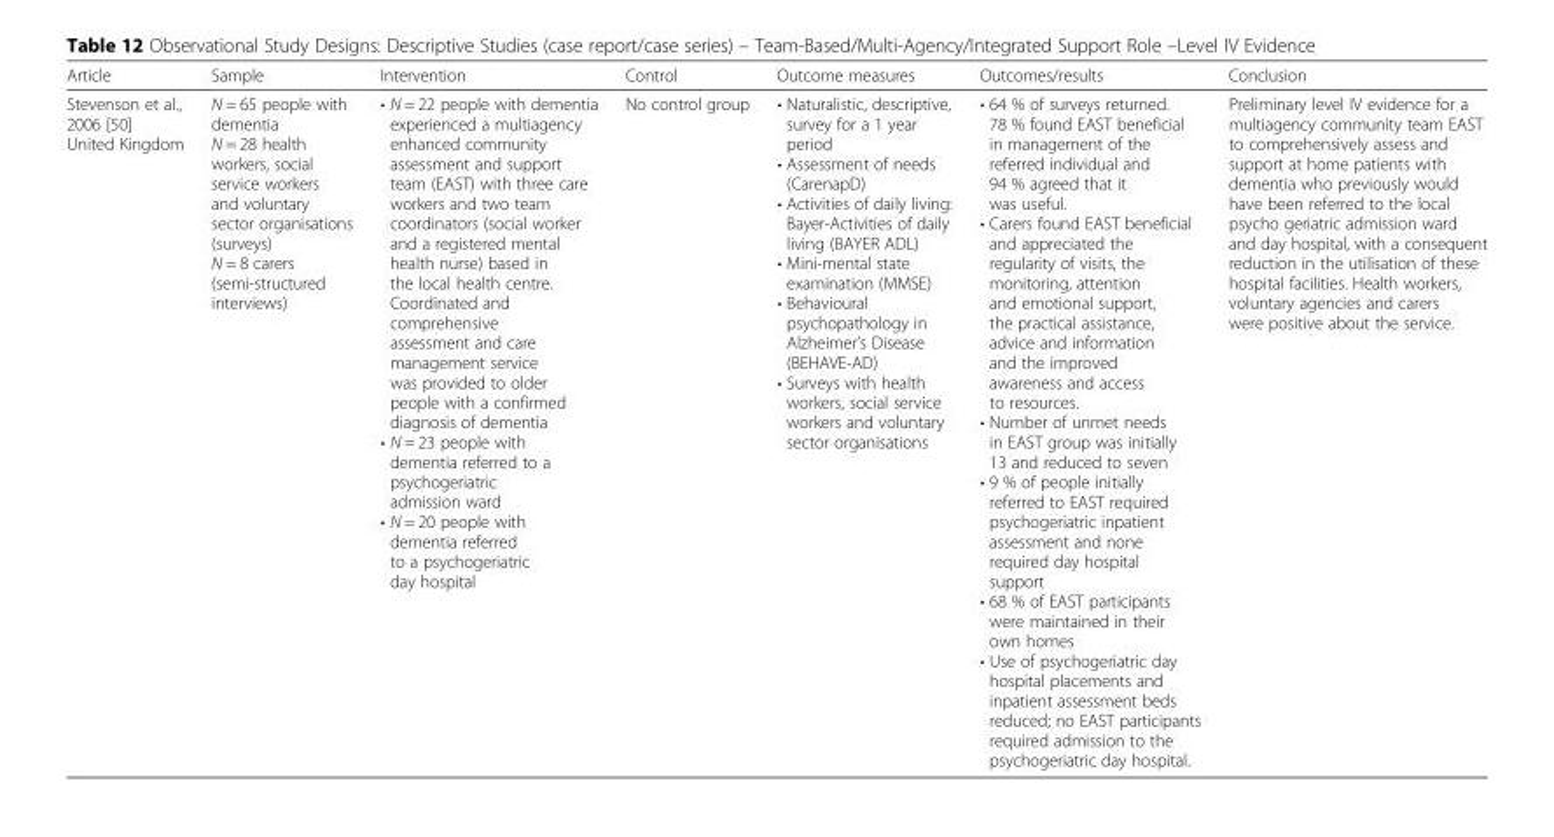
<table><thead><tr><td>Article</td><td>Sample</td><td>Intervention</td><td>Control</td><td>Outcome measures</td><td>Outcomes/results</td><td>Conclusion</td></tr></thead><tbody><tr><td>Stevenson et al., 2006 [50] United Kingdom</td><td>N = 65 people with dementia N = 28 health workers, social service workers and voluntary sector organisations (surveys) N = 8 carers (semi-structured interviews)</td><td>• N = 22 people with dementia experienced a multiagency enhanced community assessment and support team (EAST) with three care workers and two team coordinators (social worker and a registered mental health nurse) based in the local health centre. Coordinated and comprehensive assessment and care management service was provided to older people with a confirmed diagnosis of dementia • N = 23 people with dementia referred to a psychogeriatric admission ward • N = 20 people with dementia referred to a psychogeriatric day hospital</td><td>No control group</td><td>• Naturalistic, descriptive, survey for a 1 year period • Assessment of needs (CarenapD) • Activities of daily living: Bayer-Activities of daily living (BAYER ADL) • Mini-mental state examination (MMSE) • Behavioural psychopathology in Alzheimer’s Disease (BEHAVE-AD) • Surveys with health workers, social service workers and voluntary sector organisations</td><td>• 64 % of surveys returned. 78 % found EAST beneficial in management of the referred individual and 94 % agreed that it was useful. • Carers found EAST beneficial and appreciated the regularity of visits, the monitoring, attention and emotional support, the practical assistance, advice and information and the improved awareness and access to resources. • Number of unmet needs in EAST group was initially 13 and reduced to seven • 9 % of people initially referred to EAST required psychogeriatric inpatient assessment and none required day hospital support • 68 % of EAST participants were maintained in their own homes • Use of psychogeriatric day hospital placements and inpatient assessment beds reduced; no EAST participants required admission to the psychogeriatric day hospital.</td><td>Preliminary level IV evidence for a multiagency community team EAST to comprehensively assess and support at home patients with dementia who previously would have been referred to the local psycho geriatric admission ward and day hospital, with a consequent reduction in the utilisation of these hospital facilities. Health workers, voluntary agencies and carers were positive about the service.</td></tr></tbody></table>